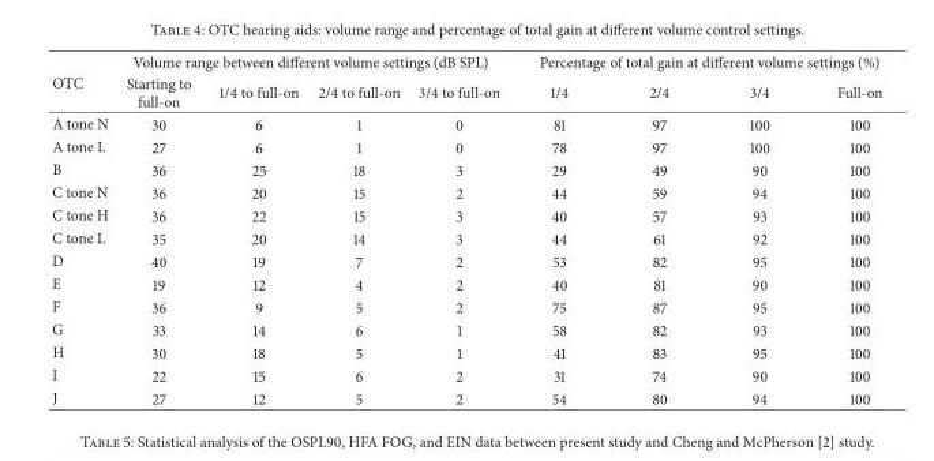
<table><thead><tr><td rowspan="2">OTC</td><td colspan="4">Volume range between different volume settings (dB SPL)</td><td colspan="4">Percentage of total gain at different volume settings (%)</td></tr><tr><td>Starting to full-on</td><td>1/4 to full-on</td><td>2/4 to full-on</td><td>3/4 to full-on</td><td>1/4</td><td>2/4</td><td>3/4</td><td>Full-on</td></tr></thead><tbody><tr><td>A tone N</td><td>30</td><td>6</td><td>1</td><td>0</td><td>81</td><td>97</td><td>100</td><td>100</td></tr><tr><td>A tone L</td><td>27</td><td>6</td><td>1</td><td>0</td><td>78</td><td>97</td><td>100</td><td>100</td></tr><tr><td>B</td><td>36</td><td>25</td><td>18</td><td>3</td><td>29</td><td>49</td><td>90</td><td>100</td></tr><tr><td>C tone N</td><td>36</td><td>20</td><td>15</td><td>2</td><td>44</td><td>59</td><td>94</td><td>100</td></tr><tr><td>C tone H</td><td>36</td><td>22</td><td>15</td><td>3</td><td>40</td><td>57</td><td>93</td><td>100</td></tr><tr><td>C tone L</td><td>35</td><td>20</td><td>14</td><td>3</td><td>44</td><td>61</td><td>92</td><td>100</td></tr><tr><td>D</td><td>40</td><td>19</td><td>7</td><td>2</td><td>53</td><td>82</td><td>95</td><td>100</td></tr><tr><td>E</td><td>19</td><td>12</td><td>4</td><td>2</td><td>40</td><td>81</td><td>90</td><td>100</td></tr><tr><td>F</td><td>36</td><td>9</td><td>5</td><td>2</td><td>75</td><td>87</td><td>95</td><td>100</td></tr><tr><td>G</td><td>33</td><td>14</td><td>6</td><td>1</td><td>58</td><td>82</td><td>93</td><td>100</td></tr><tr><td>H</td><td>30</td><td>18</td><td>5</td><td>1</td><td>41</td><td>83</td><td>95</td><td>100</td></tr><tr><td>I</td><td>22</td><td>15</td><td>6</td><td>2</td><td>31</td><td>74</td><td>90</td><td>100</td></tr><tr><td>J</td><td>27</td><td>12</td><td>5</td><td>2</td><td>54</td><td>80</td><td>94</td><td>100</td></tr></tbody></table>